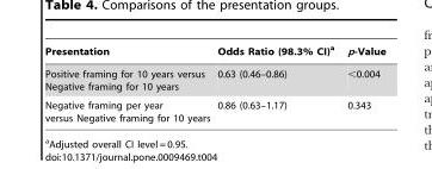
<table><thead><tr><td>Presentation</td><td>Odds Ratio (98.3% CI)<sup>a</sup></td><td>p-Value</td></tr></thead><tbody><tr><td>Positive framing for 10 years versus Negative framing for 10 years</td><td>0.63 (0.46–0.86)</td><td>&lt;0.004</td></tr><tr><td>Negative framing per year versus Negative framing for 10 years</td><td>0.86 (0.63–1.17)</td><td>0.343</td></tr></tbody></table>